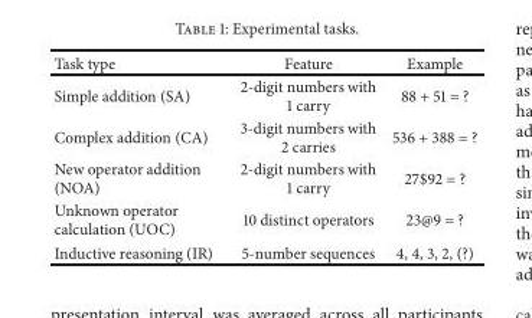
<table><thead><tr><td>Task type</td><td>Feature</td><td>Example</td></tr></thead><tbody><tr><td>Simple addition (SA)</td><td>2-digit numbers with 1 carry</td><td>88 + 51 = ?</td></tr><tr><td>Complex addition (CA)</td><td>3-digit numbers with 2 carries</td><td>536 + 388 = ?</td></tr><tr><td>New operator addition (NOA)</td><td>2-digit numbers with 1 carry</td><td>27$92 = ?</td></tr><tr><td>Unknown operator calculation (UOC)</td><td>10 distinct operators</td><td>23@9 = ?</td></tr><tr><td>Inductive reasoning (IR)</td><td>5-number sequences</td><td>4, 4, 3, 2, (?)</td></tr></tbody></table>